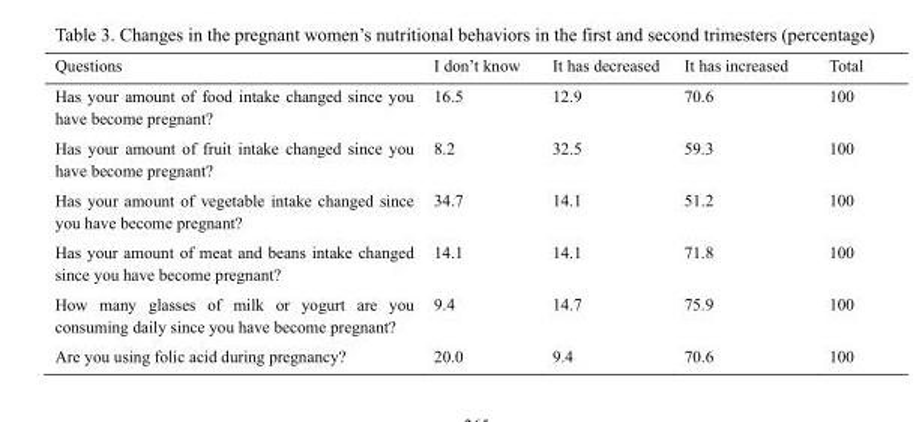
<table><thead><tr><td>Questions</td><td>I don’t know</td><td>It has decreased</td><td>It has increased</td><td>Total</td></tr></thead><tbody><tr><td>Has your amount of food intake changed since you have become pregnant?</td><td>16.5</td><td>12.9</td><td>70.6</td><td>100</td></tr><tr><td>Has your amount of fruit intake changed since you have become pregnant?</td><td>8.2</td><td>32.5</td><td>59.3</td><td>100</td></tr><tr><td>Has your amount of vegetable intake changed since you have become pregnant?</td><td>34.7</td><td>14.1</td><td>51.2</td><td>100</td></tr><tr><td>Has your amount of meat and beans intake changed since you have become pregnant?</td><td>14.1</td><td>14.1</td><td>71.8</td><td>100</td></tr><tr><td>How many glasses of milk or yogurt are you consuming daily since you have become pregnant?</td><td>9.4</td><td>14.7</td><td>75.9</td><td>100</td></tr><tr><td>Are you using folic acid during pregnancy?</td><td>20.0</td><td>9.4</td><td>70.6</td><td>100</td></tr></tbody></table>